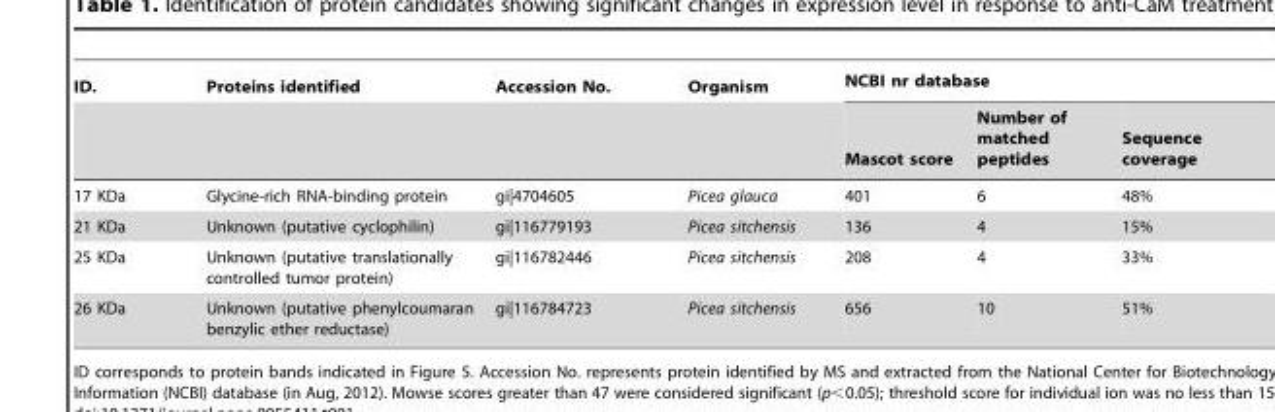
<table><thead><tr><td rowspan="2">ID.</td><td rowspan="2">Proteins identified</td><td rowspan="2">Accession No.</td><td rowspan="2">Organism</td><td colspan="3">NCBI nr database</td></tr><tr><td>Mascot score</td><td>Number of matched peptides</td><td>Sequence coverage</td></tr></thead><tbody><tr><td>17 KDa</td><td>Glycine-rich RNA-binding protein</td><td>gi|4704605</td><td>Picea glauca</td><td>401</td><td>6</td><td>48%</td></tr><tr><td>21 KDa</td><td>Unknown (putative cyclophilin)</td><td>gi|116779193</td><td>Picea sitchensis</td><td>136</td><td>4</td><td>15%</td></tr><tr><td>25 KDa</td><td>Unknown (putative translationally controlled tumor protein)</td><td>gi|116782446</td><td>Picea sitchensis</td><td>208</td><td>4</td><td>33%</td></tr><tr><td>26 KDa</td><td>Unknown (putative phenylcoumaran benzylic ether reductase)</td><td>gi|116784723</td><td>Picea sitchensis</td><td>656</td><td>10</td><td>51%</td></tr></tbody></table>